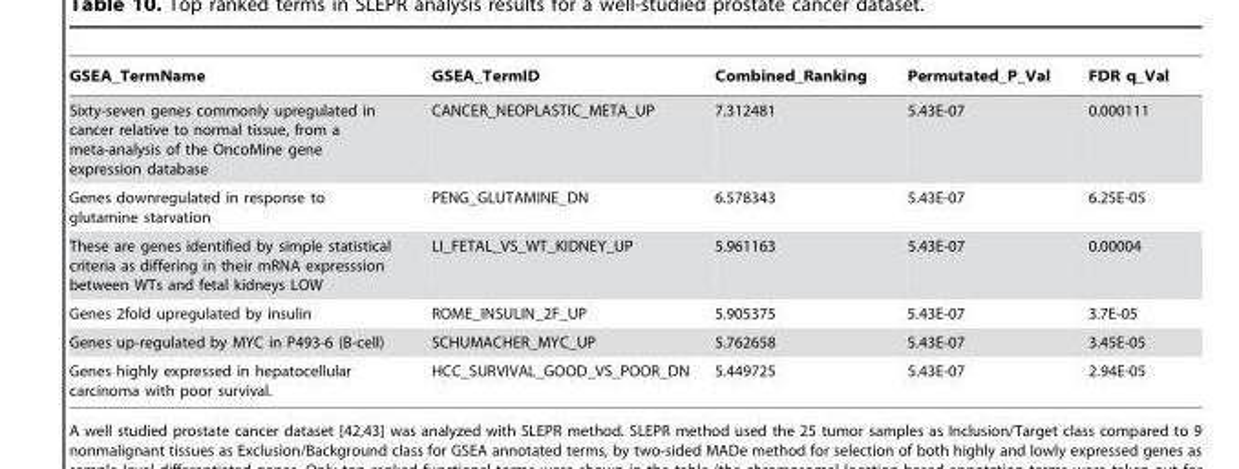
<table><thead><tr><td>GSEA_TermName</td><td>GSEA_TermID</td><td>Combined_Ranking</td><td>Permutated_P_Val</td><td>FDR q_Val</td></tr></thead><tbody><tr><td>Sixty-seven genes commonly upregulated in cancer relative to normal tissue, from a meta-analysis of the OncoMine gene expression database</td><td>CANCER_NEOPLASTIC_META_UP</td><td>7.312481</td><td>5.43E-07</td><td>0.000111</td></tr><tr><td>Genes downregulated in response to glutamine starvation</td><td>PENG_GLUTAMINE_DN</td><td>6.578343</td><td>5.43E-07</td><td>6.25E-05</td></tr><tr><td>These are genes identified by simple statistical criteria as differing in their mRNA expresssion between WTs and fetal kidneys LOW</td><td>LI_FETAL_VS_WT_KIDNEY_UP</td><td>5.961163</td><td>5.43E-07</td><td>0.00004</td></tr><tr><td>Genes 2fold upregulated by insulin</td><td>ROME_INSULIN_2F_UP</td><td>5.905375</td><td>5.43E-07</td><td>3.7E-05</td></tr><tr><td>Genes up-regulated by MYC in P493-6 (B-cell)</td><td>SCHUMACHER_MYC_UP</td><td>5.762658</td><td>5.43E-07</td><td>3.45E-05</td></tr><tr><td>Genes highly expressed in hepatocellular carcinoma with poor survival.</td><td>HCC_SURVIVAL_GOOD_VS_POOR_DN</td><td>5.449725</td><td>5.43E-07</td><td>2.94E-05</td></tr></tbody></table>